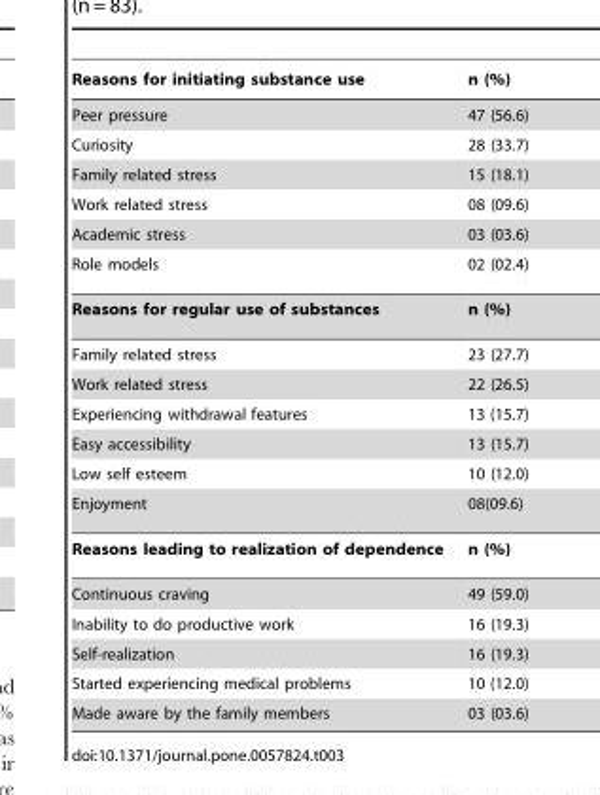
<table><thead><tr><td>Reasons for initiating substance use</td><td>n (%)</td></tr></thead><tbody><tr><td>Peer pressure</td><td>47 (56.6)</td></tr><tr><td>Curiosity</td><td>28 (33.7)</td></tr><tr><td>Family related stress</td><td>15 (18.1)</td></tr><tr><td>Work related stress</td><td>08 (09.6)</td></tr><tr><td>Academic stress</td><td>03 (03.6)</td></tr><tr><td>Role models</td><td>02 (02.4)</td></tr><tr><td>Reasons for regular use of substances</td><td>n (%)</td></tr><tr><td>Family related stress</td><td>23 (27.7)</td></tr><tr><td>Work related stress</td><td>22 (26.5)</td></tr><tr><td>Experiencing withdrawal features</td><td>13 (15.7)</td></tr><tr><td>Easy accessibility</td><td>13 (15.7)</td></tr><tr><td>Low self esteem</td><td>10 (12.0)</td></tr><tr><td>Enjoyment</td><td>08(09.6)</td></tr><tr><td>Reasons leading to realization of dependence</td><td>n (%)</td></tr><tr><td>Continuous craving</td><td>49 (59.0)</td></tr><tr><td>Inability to do productive work</td><td>16 (19.3)</td></tr><tr><td>Self-realization</td><td>16 (19.3)</td></tr><tr><td>Started experiencing medical problems</td><td>10 (12.0)</td></tr><tr><td>Made aware by the family members</td><td>03 (03.6)</td></tr></tbody></table>